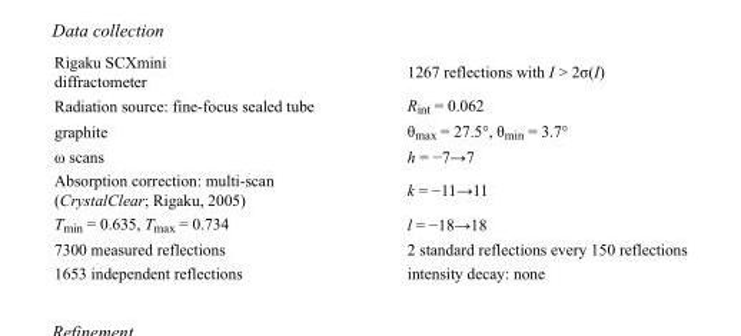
<table><tbody><tr><td>Rigaku SCXmini diffractometer</td><td>1267 reflections with I &gt; 2σ(I)</td></tr><tr><td>Radiation source: fine-focus sealed tube</td><td>R<sub>int</sub> = 0.062</td></tr><tr><td>graphite</td><td>θ<sub>max</sub> = 27.5°, θ<sub>min</sub> = 3.7°</td></tr><tr><td>ω scans</td><td>h = −7→7</td></tr><tr><td>Absorption correction: multi-scan (CrystalClear; Rigaku, 2005)</td><td>k = −11→11</td></tr><tr><td>T<sub>min</sub> = 0.635, T<sub>max</sub> = 0.734</td><td>l = −18→18</td></tr><tr><td>7300 measured reflections</td><td>2 standard reflections every 150 reflections</td></tr><tr><td>1653 independent reflections</td><td>intensity decay: none</td></tr></tbody></table>